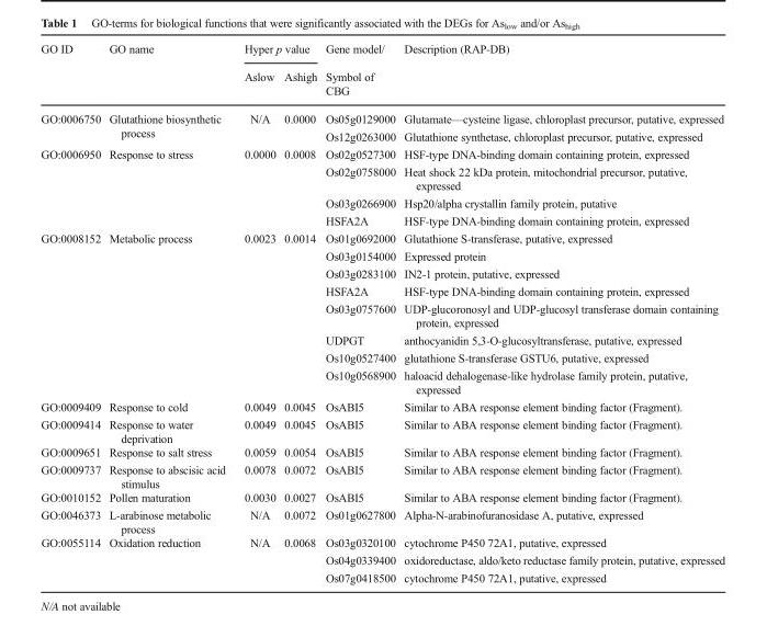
<table><thead><tr><td rowspan="2">GO ID</td><td rowspan="2">GO name</td><td colspan="2">Hyper p value</td><td rowspan="2">Gene model/ Symbol of CBG</td><td rowspan="2">Description (RAP-DB)</td></tr><tr><td>Aslow</td><td>Ashigh</td></tr></thead><tbody><tr><td rowspan="2">GO:0006750</td><td rowspan="2">Glutathione biosynthetic process</td><td rowspan="2">N/A</td><td rowspan="2">0.0000</td><td>Os05g0129000</td><td>Glutamate—cysteine ligase, chloroplast precursor, putative, expressed</td></tr><tr><td>Os12g0263000</td><td>Glutathione synthetase, chloroplast precursor, putative, expressed</td></tr><tr><td rowspan="4">GO:0006950</td><td rowspan="4">Response to stress</td><td rowspan="4">0.0000</td><td rowspan="4">0.0008</td><td>Os02g0527300</td><td>HSF-type DNA-binding domain containing protein, expressed</td></tr><tr><td>Os02g0758000</td><td>Heat shock 22 kDa protein, mitochondrial precursor, putative, expressed</td></tr><tr><td>Os03g0266900</td><td>Hsp20/alpha crystallin family protein, putative</td></tr><tr><td>HSFA2A</td><td>HSF-type DNA-binding domain containing protein, expressed</td></tr><tr><td rowspan="8">GO:0008152</td><td rowspan="8">Metabolic process</td><td rowspan="8">0.0023</td><td rowspan="8">0.0014</td><td>Os01g0692000</td><td>Glutathione S-transferase, putative, expressed</td></tr><tr><td>Os03g0154000</td><td>Expressed protein</td></tr><tr><td>Os03g0283100</td><td>IN2-1 protein, putative, expressed</td></tr><tr><td>HSFA2A</td><td>HSF-type DNA-binding domain containing protein, expressed</td></tr><tr><td>Os03g0757600</td><td>UDP-glucoronosyl and UDP-glucosyl transferase domain containing protein, expressed</td></tr><tr><td>UDPGT</td><td>anthocyanidin 5,3-O-glucosyltransferase, putative, expressed</td></tr><tr><td>Os10g0527400</td><td>glutathione S-transferase GSTU6, putative, expressed</td></tr><tr><td>Os10g0568900</td><td>haloacid dehalogenase-like hydrolase family protein, putative, expressed</td></tr><tr><td>GO:0009409</td><td>Response to cold</td><td>0.0049</td><td>0.0045</td><td>OsABI5</td><td>Similar to ABA response element binding factor (Fragment).</td></tr><tr><td>GO:0009414</td><td>Response to water deprivation</td><td>0.0049</td><td>0.0045</td><td>OsABI5</td><td>Similar to ABA response element binding factor (Fragment).</td></tr><tr><td>GO:0009651</td><td>Response to salt stress</td><td>0.0059</td><td>0.0054</td><td>OsABI5</td><td>Similar to ABA response element binding factor (Fragment).</td></tr><tr><td>GO:0009737</td><td>Response to abscisic acid stimulus</td><td>0.0078</td><td>0.0072</td><td>OsABI5</td><td>Similar to ABA response element binding factor (Fragment).</td></tr><tr><td>GO:0010152</td><td>Pollen maturation</td><td>0.0030</td><td>0.0027</td><td>OsABI5</td><td>Similar to ABA response element binding factor (Fragment).</td></tr><tr><td>GO:0046373</td><td>L-arabinose metabolic process</td><td>N/A</td><td>0.0072</td><td>Os01g0627800</td><td>Alpha-N-arabinofuranosidase A, putative, expressed</td></tr><tr><td rowspan="3">GO:0055114</td><td rowspan="3">Oxidation reduction</td><td rowspan="3">N/A</td><td rowspan="3">0.0068</td><td>Os03g0320100</td><td>cytochrome P450 72A1, putative, expressed</td></tr><tr><td>Os04g0339400</td><td>oxidoreductase, aldo/keto reductase family protein, putative, expressed</td></tr><tr><td>Os07g0418500</td><td>cytochrome P450 72A1, putative, expressed</td></tr></tbody></table>